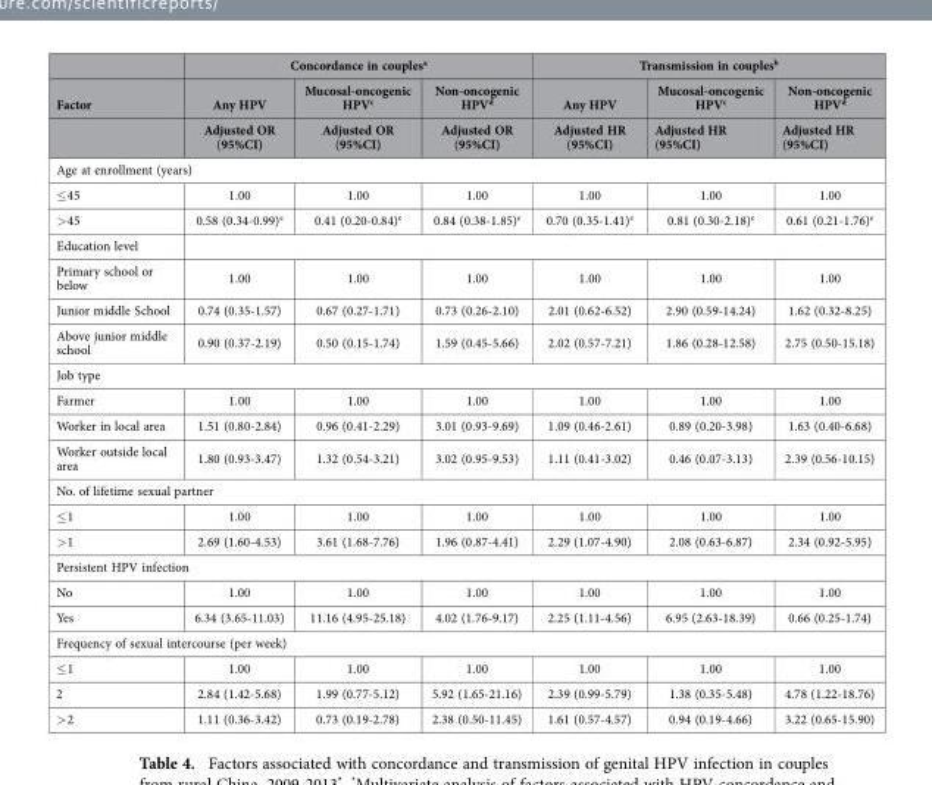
<table><thead><tr><td rowspan="3">Factor</td><td colspan="3">Concordance in couples<sup>a</sup></td><td colspan="3">Transmission in couples<sup>b</sup></td></tr><tr><td rowspan="2">Any HPV Adjusted OR (95%CI)</td><td rowspan="2">Mucosal-oncogenic HPV<sup>c</sup> Adjusted OR (95%CI)</td><td rowspan="2">Non-oncogenic HPV<sup>d</sup> Adjusted OR (95%CI)</td><td rowspan="2">Any HPV Adjusted HR (95%CI)</td><td rowspan="2">Mucosal-oncogenic HPV<sup>c</sup> Adjusted HR (95%CI)</td><td rowspan="2">Non-oncogenic HPV<sup>d</sup> Adjusted HR (95%CI)</td></tr><tr></tr></thead><tbody><tr><td colspan="7">Age at enrollment (years)</td></tr><tr><td>≤ 45</td><td>1.00</td><td>1.00</td><td>1.00</td><td>1.00</td><td>1.00</td><td>1.00</td></tr><tr><td>&gt; 45</td><td>0.58 (0.34-0.99)<sup>e</sup></td><td>0.41 (0.20-0.84)<sup>e</sup></td><td>0.84 (0.38-1.85)<sup>e</sup></td><td>0.70 (0.35-1.41)<sup>e</sup></td><td>0.81 (0.30-2.18)<sup>e</sup></td><td>0.61 (0.21-1.76)<sup>e</sup></td></tr><tr><td colspan="7">Education level</td></tr><tr><td>Primary school or below</td><td>1.00</td><td>1.00</td><td>1.00</td><td>1.00</td><td>1.00</td><td>1.00</td></tr><tr><td>Junior middle School</td><td>0.74 (0.35-1.57)</td><td>0.67 (0.27-1.71)</td><td>0.73 (0.26-2.10)</td><td>2.01 (0.62-6.52)</td><td>2.90 (0.59-14.24)</td><td>1.62 (0.32-8.25)</td></tr><tr><td>Above junior middle school</td><td>0.90 (0.37-2.19)</td><td>0.50 (0.15-1.74)</td><td>1.59 (0.45-5.66)</td><td>2.02 (0.57-7.21)</td><td>1.86 (0.28-12.58)</td><td>2.75 (0.50-15.18)</td></tr><tr><td colspan="7">Job type</td></tr><tr><td>Farmer</td><td>1.00</td><td>1.00</td><td>1.00</td><td>1.00</td><td>1.00</td><td>1.00</td></tr><tr><td>Worker in local area</td><td>1.51 (0.80-2.84)</td><td>0.96 (0.41-2.29)</td><td>3.01 (0.93-9.69)</td><td>1.09 (0.46-2.61)</td><td>0.89 (0.20-3.98)</td><td>1.63 (0.40-6.68)</td></tr><tr><td>Worker outside local area</td><td>1.80 (0.93-3.47)</td><td>1.32 (0.54-3.21)</td><td>3.02 (0.95-9.53)</td><td>1.11 (0.41-3.02)</td><td>0.46 (0.07-3.13)</td><td>2.39 (0.56-10.15)</td></tr><tr><td colspan="7">No. of lifetime sexual partner</td></tr><tr><td>≤ 1</td><td>1.00</td><td>1.00</td><td>1.00</td><td>1.00</td><td>1.00</td><td>1.00</td></tr><tr><td>&gt; 1</td><td>2.69 (1.60-4.53)</td><td>3.61 (1.68-7.76)</td><td>1.96 (0.87-4.41)</td><td>2.29 (1.07-4.90)</td><td>2.08 (0.63-6.87)</td><td>2.34 (0.92-5.95)</td></tr><tr><td colspan="7">Persistent HPV infection</td></tr><tr><td>No</td><td>1.00</td><td>1.00</td><td>1.00</td><td>1.00</td><td>1.00</td><td>1.00</td></tr><tr><td>Yes</td><td>6.34 (3.65-11.03)</td><td>11.16 (4.95-25.18)</td><td>4.02 (1.76-9.17)</td><td>2.25 (1.11-4.56)</td><td>6.95 (2.63-18.39)</td><td>0.66 (0.25-1.74)</td></tr><tr><td colspan="7">Frequency of sexual intercourse (per week)</td></tr><tr><td>≤ 1</td><td>1.00</td><td>1.00</td><td>1.00</td><td>1.00</td><td>1.00</td><td>1.00</td></tr><tr><td>2</td><td>2.84 (1.42-5.68)</td><td>1.99 (0.77-5.12)</td><td>5.92 (1.65-21.16)</td><td>2.39 (0.99-5.79)</td><td>1.38 (0.35-5.48)</td><td>4.78 (1.22-18.76)</td></tr><tr><td>&gt; 2</td><td>1.11 (0.36-3.42)</td><td>0.73 (0.19-2.78)</td><td>2.38 (0.50-11.45)</td><td>1.61 (0.57-4.57)</td><td>0.94 (0.19-4.66)</td><td>3.22 (0.65-15.90)</td></tr></tbody></table>